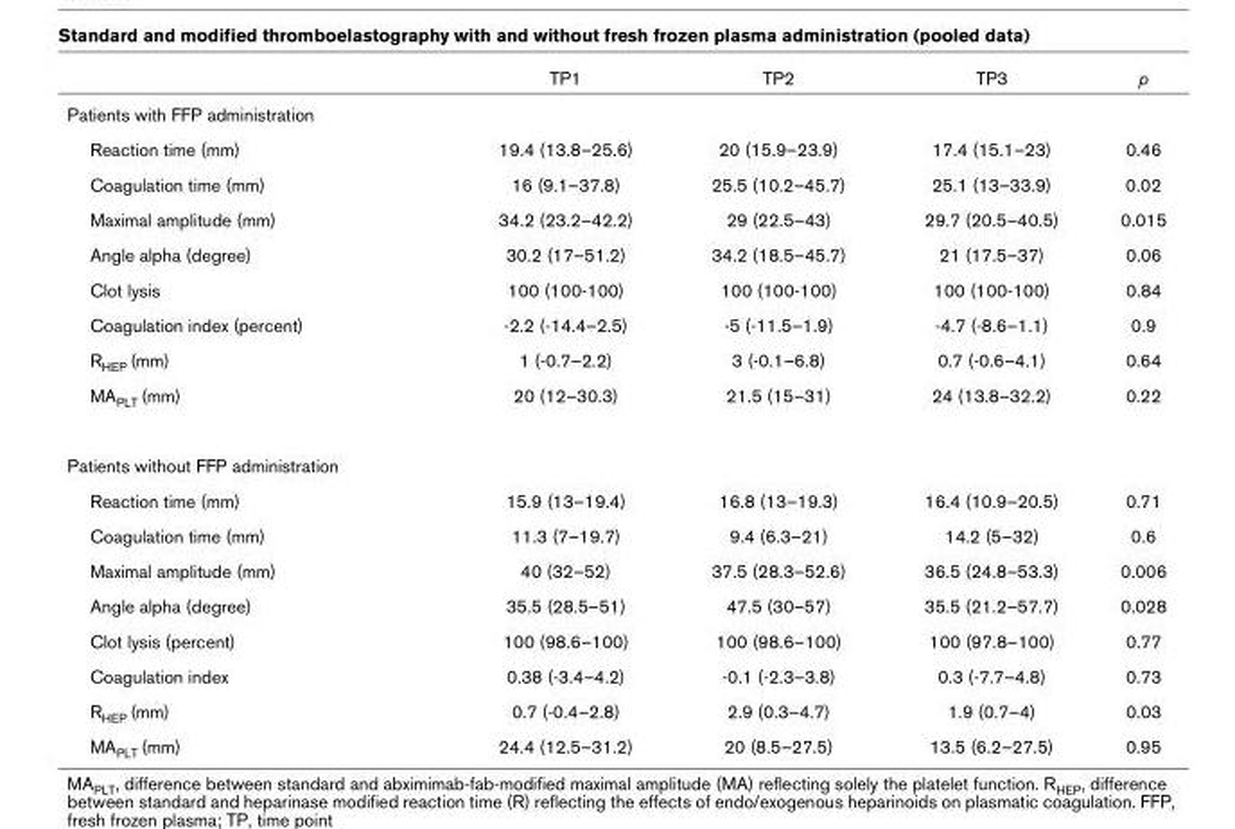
<table><thead><tr><td></td><td>TP1</td><td>TP2</td><td>TP3</td><td>p</td></tr></thead><tbody><tr><td colspan="5">Patients with FFP administration</td></tr><tr><td>Reaction time (mm)</td><td>19.4 (13.8–25.6)</td><td>20 (15.9–23.9)</td><td>17.4 (15.1–23)</td><td>0.46</td></tr><tr><td>Coagulation time (mm)</td><td>16 (9.1–37.8)</td><td>25.5 (10.2–45.7)</td><td>25.1 (13–33.9)</td><td>0.02</td></tr><tr><td>Maximal amplitude (mm)</td><td>34.2 (23.2–42.2)</td><td>29 (22.5–43)</td><td>29.7 (20.5–40.5)</td><td>0.015</td></tr><tr><td>Angle alpha (degree)</td><td>30.2 (17–51.2)</td><td>34.2 (18.5–45.7)</td><td>21 (17.5–37)</td><td>0.06</td></tr><tr><td>Clot lysis</td><td>100 (100-100)</td><td>100 (100-100)</td><td>100 (100-100)</td><td>0.84</td></tr><tr><td>Coagulation index (percent)</td><td>-2.2 (-14.4–2.5)</td><td>-5 (-11.5–1.9)</td><td>-4.7 (-8.6–1.1)</td><td>0.9</td></tr><tr><td>RHEP (mm)</td><td>1 (-0.7–2.2)</td><td>3 (-0.1–6.8)</td><td>0.7 (-0.6–4.1)</td><td>0.64</td></tr><tr><td>MAPLT (mm)</td><td>20 (12–30.3)</td><td>21.5 (15–31)</td><td>24 (13.8–32.2)</td><td>0.22</td></tr><tr><td colspan="5">Patients without FFP administration</td></tr><tr><td>Reaction time (mm)</td><td>15.9 (13–19.4)</td><td>16.8 (13–19.3)</td><td>16.4 (10.9–20.5)</td><td>0.71</td></tr><tr><td>Coagulation time (mm)</td><td>11.3 (7–19.7)</td><td>9.4 (6.3–21)</td><td>14.2 (5–32)</td><td>0.6</td></tr><tr><td>Maximal amplitude (mm)</td><td>40 (32–52)</td><td>37.5 (28.3–52.6)</td><td>36.5 (24.8–53.3)</td><td>0.006</td></tr><tr><td>Angle alpha (degree)</td><td>35.5 (28.5–51)</td><td>47.5 (30–57)</td><td>35.5 (21.2–57.7)</td><td>0.028</td></tr><tr><td>Clot lysis (percent)</td><td>100 (98.6–100)</td><td>100 (98.6–100)</td><td>100 (97.8–100)</td><td>0.77</td></tr><tr><td>Coagulation index</td><td>0.38 (-3.4–4.2)</td><td>-0.1 (-2.3–3.8)</td><td>0.3 (-7.7–4.8)</td><td>0.73</td></tr><tr><td>RHEP (mm)</td><td>0.7 (-0.4–2.8)</td><td>2.9 (0.3–4.7)</td><td>1.9 (0.7–4)</td><td>0.03</td></tr><tr><td>MAPLT (mm)</td><td>24.4 (12.5–31.2)</td><td>20 (8.5–27.5)</td><td>13.5 (6.2–27.5)</td><td>0.95</td></tr></tbody></table>